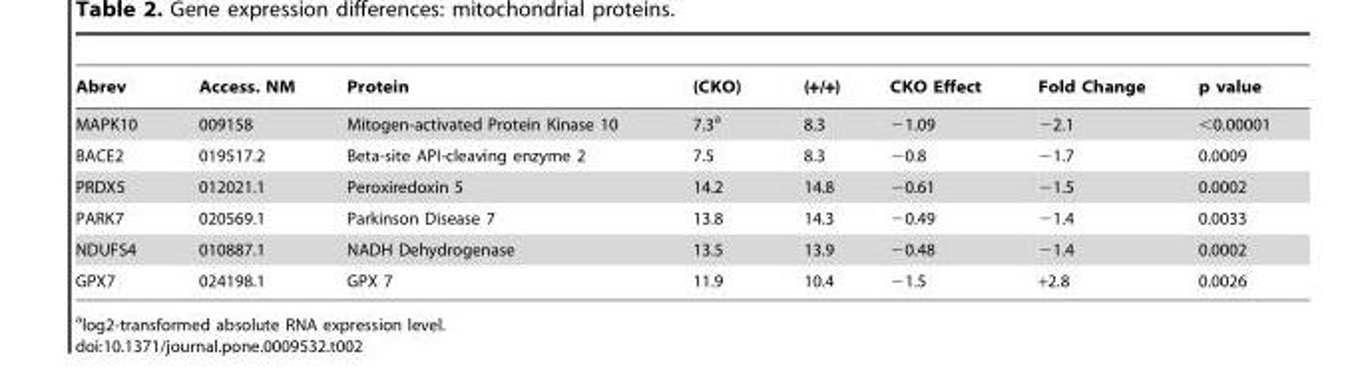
<table><thead><tr><td>Abrev</td><td>Access. NM</td><td>Protein</td><td>(CKO)</td><td>(+/+)</td><td>CKO Effect</td><td>Fold Change</td><td>p value</td></tr></thead><tbody><tr><td>MAPK10</td><td>009158</td><td>Mitogen-activated Protein Kinase 10</td><td>7.3<sup>a</sup></td><td>8.3</td><td>−1.09</td><td>−2.1</td><td>&lt;0.00001</td></tr><tr><td>BACE2</td><td>019517.2</td><td>Beta-site API-cleaving enzyme 2</td><td>7.5</td><td>8.3</td><td>−0.8</td><td>−1.7</td><td>0.0009</td></tr><tr><td>PRDX5</td><td>012021.1</td><td>Peroxiredoxin 5</td><td>14.2</td><td>14.8</td><td>−0.61</td><td>−1.5</td><td>0.0002</td></tr><tr><td>PARK7</td><td>020569.1</td><td>Parkinson Disease 7</td><td>13.8</td><td>14.3</td><td>−0.49</td><td>−1.4</td><td>0.0033</td></tr><tr><td>NDUFS4</td><td>010887.1</td><td>NADH Dehydrogenase</td><td>13.5</td><td>13.9</td><td>−0.48</td><td>−1.4</td><td>0.0002</td></tr><tr><td>GPX7</td><td>024198.1</td><td>GPX 7</td><td>11.9</td><td>10.4</td><td>−1.5</td><td>+2.8</td><td>0.0026</td></tr></tbody></table>